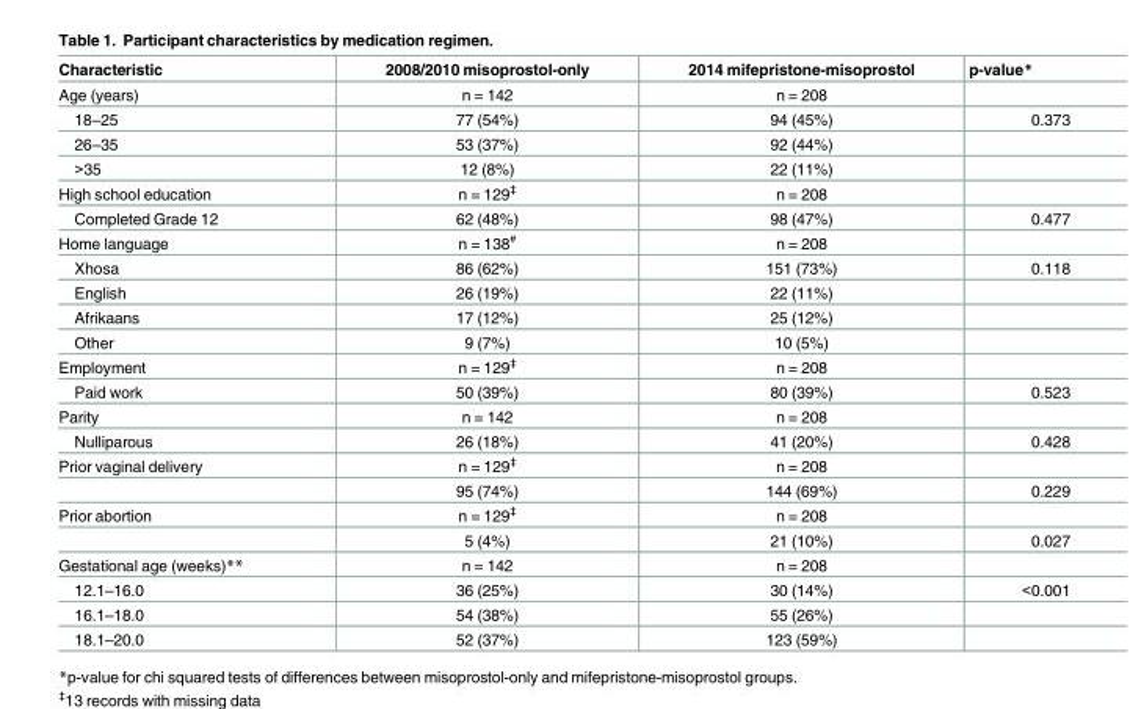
<table><thead><tr><td>Characteristic</td><td>2008/2010 misoprostol-only</td><td>2014 mifepristone-misoprostol</td><td>p-value*</td></tr></thead><tbody><tr><td>Age (years)</td><td>n = 142</td><td>n = 208</td><td></td></tr><tr><td>18–25</td><td>77 (54%)</td><td>94 (45%)</td><td>0.373</td></tr><tr><td>26–35</td><td>53 (37%)</td><td>92 (44%)</td><td></td></tr><tr><td>&gt;35</td><td>12 (8%)</td><td>22 (11%)</td><td></td></tr><tr><td>High school education</td><td>n = 129<sup>‡</sup></td><td>n = 208</td><td></td></tr><tr><td>Completed Grade 12</td><td>62 (48%)</td><td>98 (47%)</td><td>0.477</td></tr><tr><td>Home language</td><td>n = 138<sup>#</sup></td><td>n = 208</td><td></td></tr><tr><td>Xhosa</td><td>86 (62%)</td><td>151 (73%)</td><td>0.118</td></tr><tr><td>English</td><td>26 (19%)</td><td>22 (11%)</td><td></td></tr><tr><td>Afrikaans</td><td>17 (12%)</td><td>25 (12%)</td><td></td></tr><tr><td>Other</td><td>9 (7%)</td><td>10 (5%)</td><td></td></tr><tr><td>Employment</td><td>n = 129<sup>‡</sup></td><td>n = 208</td><td></td></tr><tr><td>Paid work</td><td>50 (39%)</td><td>80 (39%)</td><td>0.523</td></tr><tr><td>Parity</td><td>n = 142</td><td>n = 208</td><td></td></tr><tr><td>Nulliparous</td><td>26 (18%)</td><td>41 (20%)</td><td>0.428</td></tr><tr><td rowspan="2">Prior vaginal delivery</td><td>n = 129<sup>‡</sup></td><td>n = 208</td><td></td></tr><tr><td>95 (74%)</td><td>144 (69%)</td><td>0.229</td></tr><tr><td rowspan="2">Prior abortion</td><td>n = 129<sup>‡</sup></td><td>n = 208</td><td></td></tr><tr><td>5 (4%)</td><td>21 (10%)</td><td>0.027</td></tr><tr><td>Gestational age (weeks)**</td><td>n = 142</td><td>n = 208</td><td></td></tr><tr><td>12.1–16.0</td><td>36 (25%)</td><td>30 (14%)</td><td>&lt;0.001</td></tr><tr><td>16.1–18.0</td><td>54 (38%)</td><td>55 (26%)</td><td></td></tr><tr><td>18.1–20.0</td><td>52 (37%)</td><td>123 (59%)</td><td></td></tr></tbody></table>